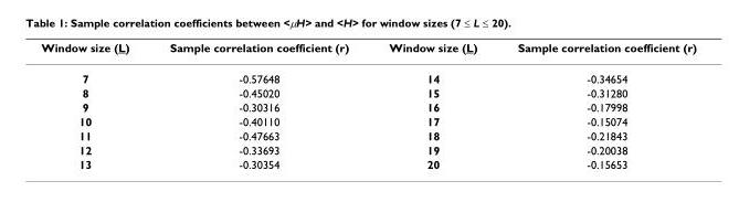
<table><thead><tr><td>Window size (L)</td><td>Sample correlation coefficient (r)</td><td>Window size (L)</td><td>Sample correlation coefficient (r)</td></tr></thead><tbody><tr><td>7</td><td>-0.57648</td><td>14</td><td>-0.34654</td></tr><tr><td>8</td><td>-0.45020</td><td>15</td><td>-0.31280</td></tr><tr><td>9</td><td>-0.30316</td><td>16</td><td>-0.17998</td></tr><tr><td>10</td><td>-0.40110</td><td>17</td><td>-0.15074</td></tr><tr><td>11</td><td>-0.47663</td><td>18</td><td>-0.21843</td></tr><tr><td>12</td><td>-0.33693</td><td>19</td><td>-0.20038</td></tr><tr><td>13</td><td>-0.30354</td><td>20</td><td>-0.15653</td></tr></tbody></table>